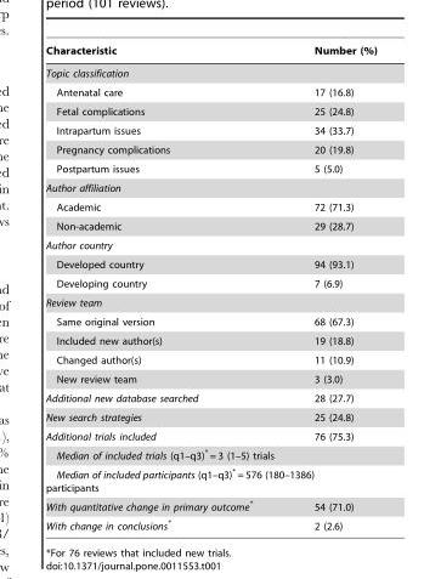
<table><thead><tr><td>Characteristic</td><td>Number (%)</td></tr></thead><tbody><tr><td colspan="2">Topic classification</td></tr><tr><td>Antenatal care</td><td>17 (16.8)</td></tr><tr><td>Fetal complications</td><td>25 (24.8)</td></tr><tr><td>Intrapartum issues</td><td>34 (33.7)</td></tr><tr><td>Pregnancy complications</td><td>20 (19.8)</td></tr><tr><td>Postpartum issues</td><td>5 (5.0)</td></tr><tr><td colspan="2">Author affiliation</td></tr><tr><td>Academic</td><td>72 (71.3)</td></tr><tr><td>Non-academic</td><td>29 (28.7)</td></tr><tr><td colspan="2">Author country</td></tr><tr><td>Developed country</td><td>94 (93.1)</td></tr><tr><td>Developing country</td><td>7 (6.9)</td></tr><tr><td colspan="2">Review team</td></tr><tr><td>Same original version</td><td>68 (67.3)</td></tr><tr><td>Included new author(s)</td><td>19 (18.8)</td></tr><tr><td>Changed author(s)</td><td>11 (10.9)</td></tr><tr><td>New review team</td><td>3 (3.0)</td></tr><tr><td>Additional new database searched</td><td>28 (27.7)</td></tr><tr><td>New search strategies</td><td>25 (24.8)</td></tr><tr><td>Additional trials included</td><td>76 (75.3)</td></tr><tr><td colspan="2">Median of included trials (q1–q3)* = 3 (1–5) trials</td></tr><tr><td colspan="2">Median of included participants (q1–q3)* = 576 (180–1386) participants</td></tr><tr><td>With quantitative change in primary outcome*</td><td>54 (71.0)</td></tr><tr><td>With change in conclusions*</td><td>2 (2.6)</td></tr></tbody></table>